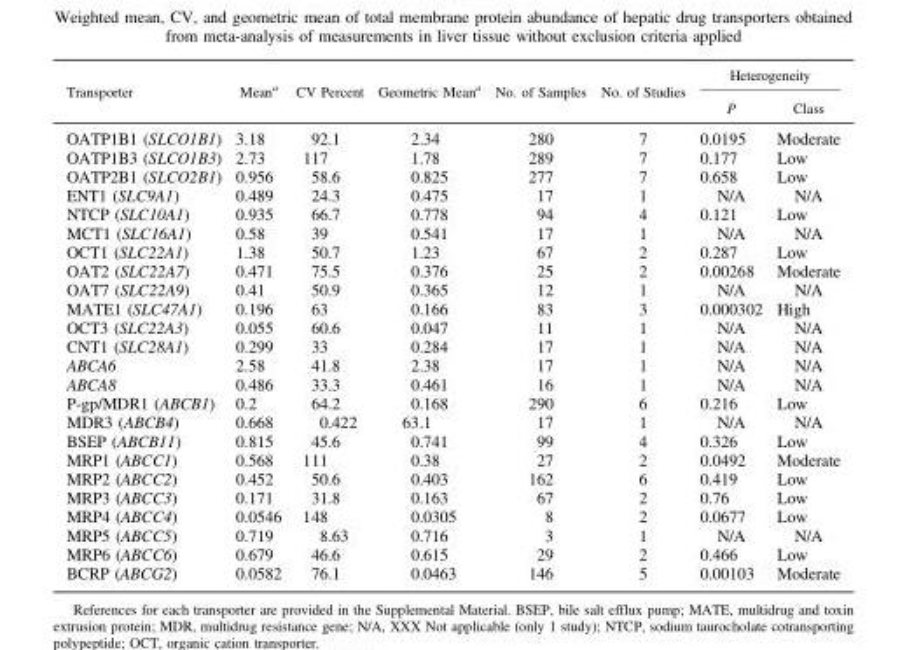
<table><thead><tr><td rowspan="2">Transporter</td><td rowspan="2">Mean<sup>a</sup></td><td rowspan="2">CV Percent</td><td rowspan="2">Geometric Mean<sup>a</sup></td><td rowspan="2">No. of Samples</td><td rowspan="2">No. of Studies</td><td colspan="2">Heterogeneity</td></tr><tr><td>P</td><td>Class</td></tr></thead><tbody><tr><td>OATP1B1 (SLCO1B1)</td><td>3.18</td><td>92.1</td><td>2.34</td><td>280</td><td>7</td><td>0.0195</td><td>Moderate</td></tr><tr><td>OATP1B3 (SLCO1B3)</td><td>2.73</td><td>117</td><td>1.78</td><td>289</td><td>7</td><td>0.177</td><td>Low</td></tr><tr><td>OATP2B1 (SLCO2B1)</td><td>0.956</td><td>58.6</td><td>0.825</td><td>277</td><td>7</td><td>0.658</td><td>Low</td></tr><tr><td>ENT1 (SLC9A1)</td><td>0.489</td><td>24.3</td><td>0.475</td><td>17</td><td>1</td><td>N/A</td><td>N/A</td></tr><tr><td>NTCP (SLC10A1)</td><td>0.935</td><td>66.7</td><td>0.778</td><td>94</td><td>4</td><td>0.121</td><td>Low</td></tr><tr><td>MCT1 (SLC16A1)</td><td>0.58</td><td>39</td><td>0.541</td><td>17</td><td>1</td><td>N/A</td><td>N/A</td></tr><tr><td>OCT1 (SLC22A1)</td><td>1.38</td><td>50.7</td><td>1.23</td><td>67</td><td>2</td><td>0.287</td><td>Low</td></tr><tr><td>OAT2 (SLC22A7)</td><td>0.471</td><td>75.5</td><td>0.376</td><td>25</td><td>2</td><td>0.00268</td><td>Moderate</td></tr><tr><td>OAT7 (SLC22A9)</td><td>0.41</td><td>50.9</td><td>0.365</td><td>12</td><td>1</td><td>N/A</td><td>N/A</td></tr><tr><td>MATE1 (SLC47A1)</td><td>0.196</td><td>63</td><td>0.166</td><td>83</td><td>3</td><td>0.000302</td><td>High</td></tr><tr><td>OCT3 (SLC22A3)</td><td>0.055</td><td>60.6</td><td>0.047</td><td>11</td><td>1</td><td>N/A</td><td>N/A</td></tr><tr><td>CNT1 (SLC28A1)</td><td>0.299</td><td>33</td><td>0.284</td><td>17</td><td>1</td><td>N/A</td><td>N/A</td></tr><tr><td>ABCA6</td><td>2.58</td><td>41.8</td><td>2.38</td><td>17</td><td>1</td><td>N/A</td><td>N/A</td></tr><tr><td>ABCA8</td><td>0.486</td><td>33.3</td><td>0.461</td><td>16</td><td>1</td><td>N/A</td><td>N/A</td></tr><tr><td>P-gp/MDR1 (ABCB1)</td><td>0.2</td><td>64.2</td><td>0.168</td><td>290</td><td>6</td><td>0.216</td><td>Low</td></tr><tr><td>MDR3 (ABCB4)</td><td>0.668</td><td>0.422</td><td>63.1</td><td>17</td><td>1</td><td>N/A</td><td>N/A</td></tr><tr><td>BSEP (ABCB11)</td><td>0.815</td><td>45.6</td><td>0.741</td><td>99</td><td>4</td><td>0.326</td><td>Low</td></tr><tr><td>MRP1 (ABCC1)</td><td>0.568</td><td>111</td><td>0.38</td><td>27</td><td>2</td><td>0.0492</td><td>Moderate</td></tr><tr><td>MRP2 (ABCC2)</td><td>0.452</td><td>50.6</td><td>0.403</td><td>162</td><td>6</td><td>0.419</td><td>Low</td></tr><tr><td>MRP3 (ABCC3)</td><td>0.171</td><td>31.8</td><td>0.163</td><td>67</td><td>2</td><td>0.76</td><td>Low</td></tr><tr><td>MRP4 (ABCC4)</td><td>0.0546</td><td>148</td><td>0.0305</td><td>8</td><td>2</td><td>0.0677</td><td>Low</td></tr><tr><td>MRP5 (ABCC5)</td><td>0.719</td><td>8.63</td><td>0.716</td><td>3</td><td>1</td><td>N/A</td><td>N/A</td></tr><tr><td>MRP6 (ABCC6)</td><td>0.679</td><td>46.6</td><td>0.615</td><td>29</td><td>2</td><td>0.466</td><td>Low</td></tr><tr><td>BCRP (ABCG2)</td><td>0.0582</td><td>76.1</td><td>0.0463</td><td>146</td><td>5</td><td>0.00103</td><td>Moderate</td></tr></tbody></table>